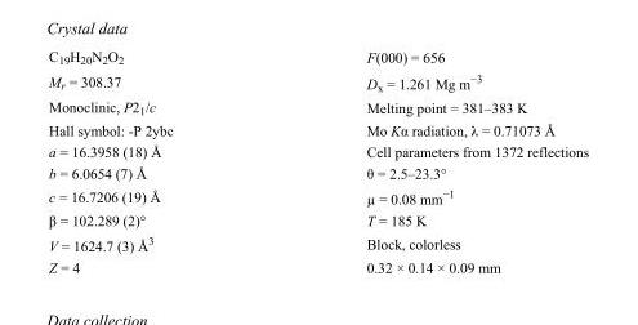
<table><tbody><tr><td>C<sub>19</sub>H<sub>20</sub>N<sub>2</sub>O<sub>2</sub></td><td>F(000) = 656</td></tr><tr><td>M<sub>r</sub> = 308.37</td><td>D<sub>x</sub> = 1.261 Mg m<sup>−3</sup></td></tr><tr><td>Monoclinic, P2<sub>1</sub>/c</td><td>Melting point = 381–383 K</td></tr><tr><td>Hall symbol: -P 2ybc</td><td>Mo Kα radiation, λ = 0.71073 Å</td></tr><tr><td>a = 16.3958 (18) Å</td><td>Cell parameters from 1372 reflections</td></tr><tr><td>b = 6.0654 (7) Å</td><td>θ = 2.5–23.3°</td></tr><tr><td>c = 16.7206 (19) Å</td><td>µ = 0.08 mm<sup>−1</sup></td></tr><tr><td>β = 102.289 (2)°</td><td>T = 185 K</td></tr><tr><td>V = 1624.7 (3) Å<sup>3</sup></td><td>Block, colorless</td></tr><tr><td>Z = 4</td><td>0.32 × 0.14 × 0.09 mm</td></tr></tbody></table>